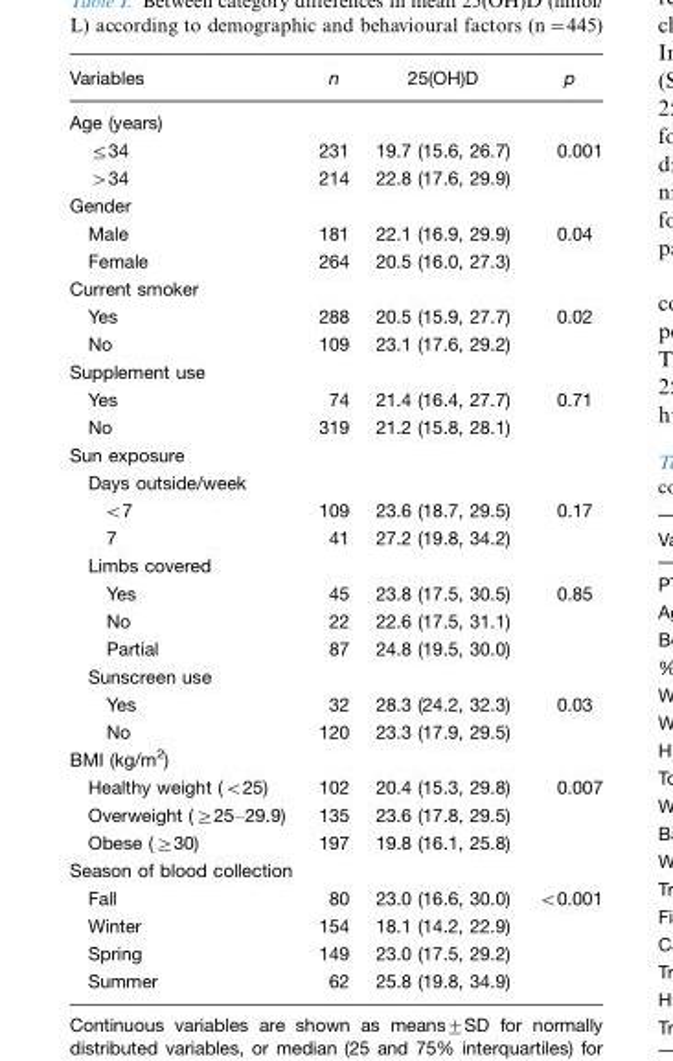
<table><thead><tr><td>Variables</td><td>n</td><td>25(OH)D</td><td>p</td></tr></thead><tbody><tr><td colspan="4">Age (years)</td></tr><tr><td>≤34</td><td>231</td><td>19.7 (15.6, 26.7)</td><td>0.001</td></tr><tr><td>&gt;34</td><td>214</td><td>22.8 (17.6, 29.9)</td><td></td></tr><tr><td colspan="4">Gender</td></tr><tr><td>Male</td><td>181</td><td>22.1 (16.9, 29.9)</td><td>0.04</td></tr><tr><td>Female</td><td>264</td><td>20.5 (16.0, 27.3)</td><td></td></tr><tr><td colspan="4">Current smoker</td></tr><tr><td>Yes</td><td>288</td><td>20.5 (15.9, 27.7)</td><td>0.02</td></tr><tr><td>No</td><td>109</td><td>23.1 (17.6, 29.2)</td><td></td></tr><tr><td colspan="4">Supplement use</td></tr><tr><td>Yes</td><td>74</td><td>21.4 (16.4, 27.7)</td><td>0.71</td></tr><tr><td>No</td><td>319</td><td>21.2 (15.8, 28.1)</td><td></td></tr><tr><td colspan="4">Sun exposure</td></tr><tr><td colspan="4">Days outside/week</td></tr><tr><td>&lt;7</td><td>109</td><td>23.6 (18.7, 29.5)</td><td>0.17</td></tr><tr><td>7</td><td>41</td><td>27.2 (19.8, 34.2)</td><td></td></tr><tr><td colspan="4">Limbs covered</td></tr><tr><td>Yes</td><td>45</td><td>23.8 (17.5, 30.5)</td><td>0.85</td></tr><tr><td>No</td><td>22</td><td>22.6 (17.5, 31.1)</td><td></td></tr><tr><td>Partial</td><td>87</td><td>24.8 (19.5, 30.0)</td><td></td></tr><tr><td colspan="4">Sunscreen use</td></tr><tr><td>Yes</td><td>32</td><td>28.3 (24.2, 32.3)</td><td>0.03</td></tr><tr><td>No</td><td>120</td><td>23.3 (17.9, 29.5)</td><td></td></tr><tr><td colspan="4">BMI (kg/m<sup>2</sup>)</td></tr><tr><td>Healthy weight (&lt;25)</td><td>102</td><td>20.4 (15.3, 29.8)</td><td>0.007</td></tr><tr><td>Overweight (≥25–29.9)</td><td>135</td><td>23.6 (17.8, 29.5)</td><td></td></tr><tr><td>Obese (≥30)</td><td>197</td><td>19.8 (16.1, 25.8)</td><td></td></tr><tr><td colspan="4">Season of blood collection</td></tr><tr><td>Fall</td><td>80</td><td>23.0 (16.6, 30.0)</td><td>&lt;0.001</td></tr><tr><td>Winter</td><td>154</td><td>18.1 (14.2, 22.9)</td><td></td></tr><tr><td>Spring</td><td>149</td><td>23.0 (17.5, 29.2)</td><td></td></tr><tr><td>Summer</td><td>62</td><td>25.8 (19.8, 34.9)</td><td></td></tr></tbody></table>